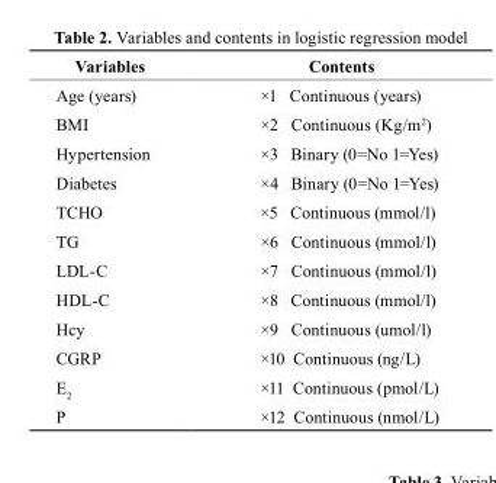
<table><thead><tr><td>Variables</td><td>contents</td></tr></thead><tbody><tr><td>Age (years)</td><td>×1 Continuous (years)</td></tr><tr><td>BMI</td><td>×2 Continuous (Kg/m<sup>2</sup>)</td></tr><tr><td>Hypertension</td><td>×3 Binary (0=No 1=Yes)</td></tr><tr><td>Diabetes</td><td>×4 Binary (0=No 1=Yes)</td></tr><tr><td>TCHO</td><td>×5 Continuous (mmol/l)</td></tr><tr><td>TG</td><td>×6 Continuous (mmol/l)</td></tr><tr><td>LDL-C</td><td>×7 Continuous (mmol/l)</td></tr><tr><td>HDL-C</td><td>×8 Continuous (mmol/l)</td></tr><tr><td>Hcy</td><td>×9 Continuous (umol/l)</td></tr><tr><td>CGRP</td><td>×10 Continuous (ng/L)</td></tr><tr><td>E<sub>2</sub></td><td>×11 Continuous (pmol/L)</td></tr><tr><td>P</td><td>×12 Continuous (nmol/L)</td></tr></tbody></table>